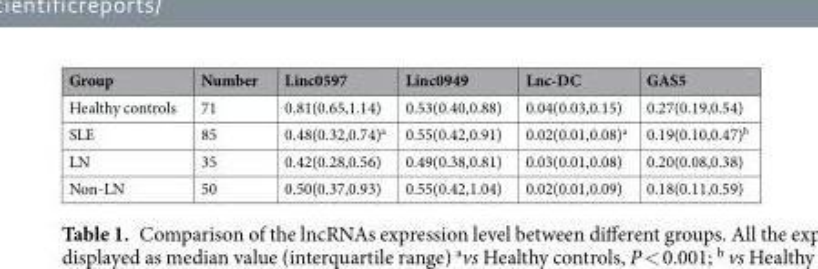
<table><thead><tr><td>Group</td><td>Number</td><td>Linc0597</td><td>Linc0949</td><td>Lnc-DC</td><td>GAS5</td></tr></thead><tbody><tr><td>Healthy controls</td><td>71</td><td>0.81(0.65,1.14)</td><td>0.53(0.40,0.88)</td><td>0.04(0.03,0.15)</td><td>0.27(0.19,0.54)</td></tr><tr><td>SLE</td><td>85</td><td>0.48(0.32,0.74)<sup>a</sup></td><td>0.55(0.42,0.91)</td><td>0.02(0.01,0.08)<sup>a</sup></td><td>0.19(0.10,0.47)<sup>b</sup></td></tr><tr><td>LN</td><td>35</td><td>0.42(0.28,0.56)</td><td>0.49(0.38,0.81)</td><td>0.03(0.01,0.08)</td><td>0.20(0.08,0.38)</td></tr><tr><td>Non-LN</td><td>50</td><td>0.50(0.37,0.93)</td><td>0.55(0.42,1.04)</td><td>0.02(0.01,0.09)</td><td>0.18(0.11,0.59)</td></tr></tbody></table>